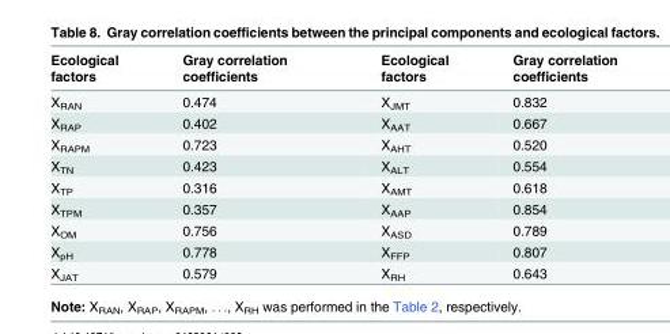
<table><thead><tr><td>Ecological factors</td><td>Gray correlation coefficients</td><td>Ecological factors</td><td>Gray correlation coefficients</td></tr></thead><tbody><tr><td>X<sub>RAN</sub></td><td>0.474</td><td>X<sub>JMT</sub></td><td>0.832</td></tr><tr><td>X<sub>RAP</sub></td><td>0.402</td><td>X<sub>AAT</sub></td><td>0.667</td></tr><tr><td>X<sub>RAPM</sub></td><td>0.723</td><td>X<sub>AHT</sub></td><td>0.520</td></tr><tr><td>X<sub>TN</sub></td><td>0.423</td><td>X<sub>ALT</sub></td><td>0.554</td></tr><tr><td>X<sub>TP</sub></td><td>0.316</td><td>X<sub>AMT</sub></td><td>0.618</td></tr><tr><td>X<sub>TPM</sub></td><td>0.357</td><td>X<sub>AAP</sub></td><td>0.854</td></tr><tr><td>X<sub>OM</sub></td><td>0.756</td><td>X<sub>ASD</sub></td><td>0.789</td></tr><tr><td>X<sub>pH</sub></td><td>0.778</td><td>X<sub>FFP</sub></td><td>0.807</td></tr><tr><td>X<sub>JAT</sub></td><td>0.579</td><td>X<sub>RH</sub></td><td>0.643</td></tr></tbody></table>